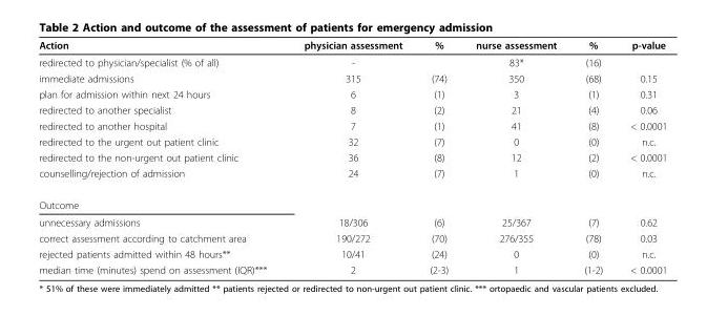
<table><thead><tr><td>Action</td><td>physician assessment</td><td>%</td><td>nurse assessment</td><td>%</td><td>p-value</td></tr></thead><tbody><tr><td>redirected to physician/specialist (% of all)</td><td>-</td><td></td><td>83*</td><td>(16)</td><td></td></tr><tr><td>immediate admissions</td><td>315</td><td>(74)</td><td>350</td><td>(68)</td><td>0.15</td></tr><tr><td>plan for admission within next 24 hours</td><td>6</td><td>(1)</td><td>3</td><td>(1)</td><td>0.31</td></tr><tr><td>redirected to another specialist</td><td>8</td><td>(2)</td><td>21</td><td>(4)</td><td>0.06</td></tr><tr><td>redirected to another hospital</td><td>7</td><td>(1)</td><td>41</td><td>(8)</td><td>&lt; 0.0001</td></tr><tr><td>redirected to the urgent out patient clinic</td><td>32</td><td>(7)</td><td>0</td><td>(0)</td><td>n.c.</td></tr><tr><td>redirected to the non-urgent out patient clinic</td><td>36</td><td>(8)</td><td>12</td><td>(2)</td><td>&lt; 0.0001</td></tr><tr><td>counselling/rejection of admission</td><td>24</td><td>(7)</td><td>1</td><td>(0)</td><td>n.c.</td></tr><tr><td colspan="6">Outcome</td></tr><tr><td>unnecessary admissions</td><td>18/306</td><td>(6)</td><td>25/367</td><td>(7)</td><td>0.62</td></tr><tr><td>correct assessment according to catchment area</td><td>190/272</td><td>(70)</td><td>276/355</td><td>(78)</td><td>0.03</td></tr><tr><td>rejected patients admitted within 48 hours**</td><td>10/41</td><td>(24)</td><td>0</td><td>(0)</td><td>n.c.</td></tr><tr><td>median time (minutes) spend on assessment (IQR)***</td><td>2</td><td>(2-3)</td><td>1</td><td>(1-2)</td><td>&lt; 0.0001</td></tr></tbody></table>